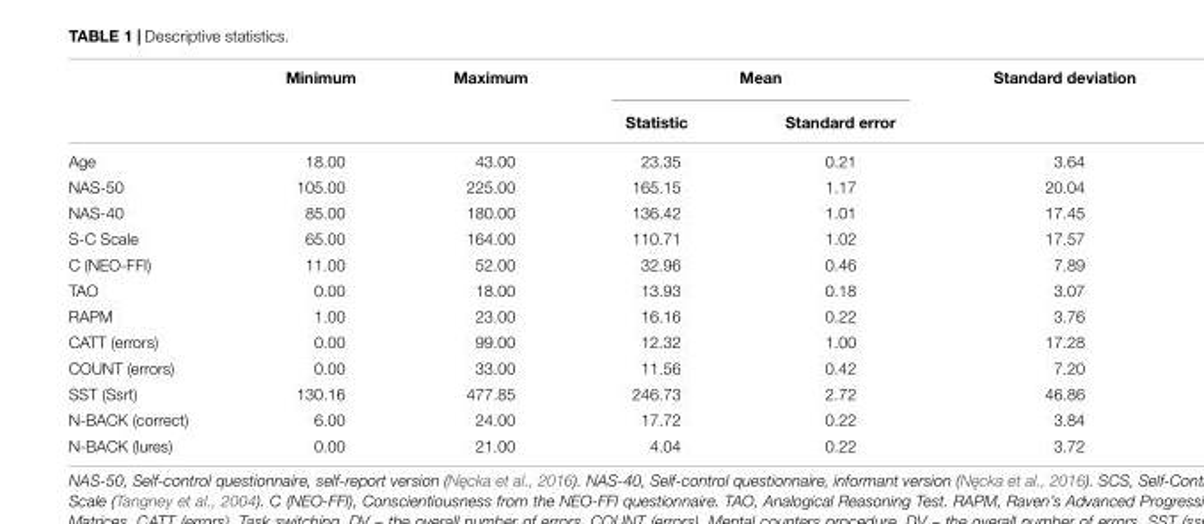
<table><thead><tr><td rowspan="2"></td><td rowspan="2">Minimum</td><td rowspan="2">Maximum</td><td colspan="2">Mean</td><td rowspan="2">Standard deviation</td></tr><tr><td>Statistic</td><td>Standard error</td></tr></thead><tbody><tr><td>Age</td><td>18.00</td><td>43.00</td><td>23.35</td><td>0.21</td><td>3.64</td></tr><tr><td>NAS-50</td><td>105.00</td><td>225.00</td><td>165.15</td><td>1.17</td><td>20.04</td></tr><tr><td>NAS-40</td><td>85.00</td><td>180.00</td><td>136.42</td><td>1.01</td><td>17.45</td></tr><tr><td>S-C Scale</td><td>65.00</td><td>164.00</td><td>110.71</td><td>1.02</td><td>17.57</td></tr><tr><td>C (NEO-FFI)</td><td>11.00</td><td>52.00</td><td>32.96</td><td>0.46</td><td>7.89</td></tr><tr><td>TAO</td><td>0.00</td><td>18.00</td><td>13.93</td><td>0.18</td><td>3.07</td></tr><tr><td>RAPM</td><td>1.00</td><td>23.00</td><td>16.16</td><td>0.22</td><td>3.76</td></tr><tr><td>CATT (errors)</td><td>0.00</td><td>99.00</td><td>12.32</td><td>1.00</td><td>17.28</td></tr><tr><td>COUNT (errors)</td><td>0.00</td><td>33.00</td><td>11.56</td><td>0.42</td><td>7.20</td></tr><tr><td>SST (Ssrt)</td><td>130.16</td><td>477.85</td><td>246.73</td><td>2.72</td><td>46.86</td></tr><tr><td>N-BACK (correct)</td><td>6.00</td><td>24.00</td><td>17.72</td><td>0.22</td><td>3.84</td></tr><tr><td>N-BACK (lures)</td><td>0.00</td><td>21.00</td><td>4.04</td><td>0.22</td><td>3.72</td></tr></tbody></table>